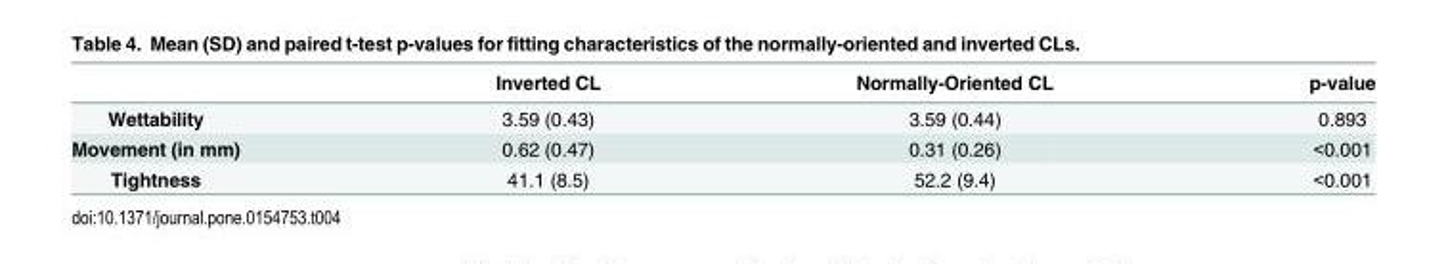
<table><thead><tr><td></td><td>Inverted CL</td><td>Normally-Oriented CL</td><td>p-value</td></tr></thead><tbody><tr><td>Wettability</td><td>3.59 (0.43)</td><td>3.59 (0.44)</td><td>0.893</td></tr><tr><td>Movement (in mm)</td><td>0.62 (0.47)</td><td>0.31 (0.26)</td><td>&lt;0.001</td></tr><tr><td>Tightness</td><td>41.1 (8.5)</td><td>52.2 (9.4)</td><td>&lt;0.001</td></tr></tbody></table>